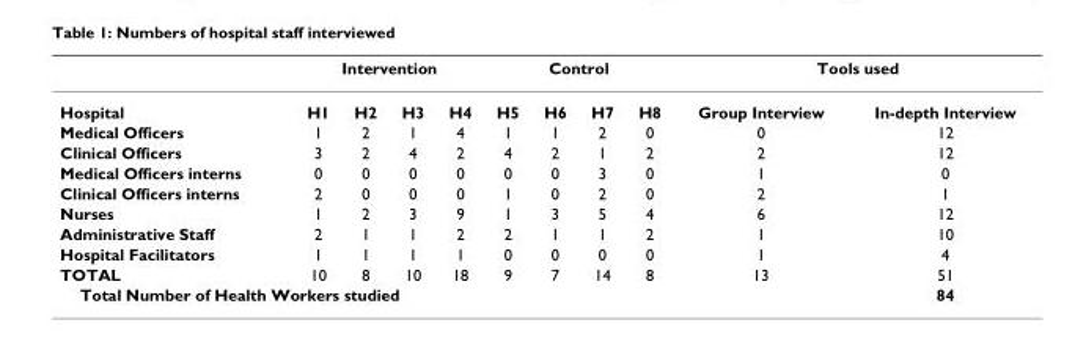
<table><thead><tr><td rowspan="2">Hospital</td><td colspan="4">Intervention</td><td colspan="4">Control</td><td colspan="2">Tools used</td></tr><tr><td>H1</td><td>H2</td><td>H3</td><td>H4</td><td>H5</td><td>H6</td><td>H7</td><td>H8</td><td>Group Interview</td><td>In-depth Interview</td></tr></thead><tbody><tr><td>Medical Officers</td><td>1</td><td>2</td><td>1</td><td>4</td><td>1</td><td>1</td><td>2</td><td>0</td><td>0</td><td>12</td></tr><tr><td>Clinical Officers</td><td>3</td><td>2</td><td>4</td><td>2</td><td>4</td><td>2</td><td>1</td><td>2</td><td>2</td><td>12</td></tr><tr><td>Medical Officers interns</td><td>0</td><td>0</td><td>0</td><td>0</td><td>0</td><td>0</td><td>3</td><td>0</td><td>1</td><td>0</td></tr><tr><td>Clinical Officers interns</td><td>2</td><td>0</td><td>0</td><td>0</td><td>1</td><td>0</td><td>2</td><td>0</td><td>2</td><td>1</td></tr><tr><td>Nurses</td><td>1</td><td>2</td><td>3</td><td>9</td><td>1</td><td>3</td><td>5</td><td>4</td><td>6</td><td>12</td></tr><tr><td>Administrative Staff</td><td>2</td><td>1</td><td>1</td><td>2</td><td>2</td><td>1</td><td>1</td><td>2</td><td>1</td><td>10</td></tr><tr><td>Hospital Facilitators</td><td>1</td><td>1</td><td>1</td><td>1</td><td>0</td><td>0</td><td>0</td><td>0</td><td>1</td><td>4</td></tr><tr><td>TOTAL</td><td>10</td><td>8</td><td>10</td><td>18</td><td>9</td><td>7</td><td>14</td><td>8</td><td>13</td><td>51</td></tr><tr><td colspan="10">Total Number of Health Workers studied</td><td>84</td></tr></tbody></table>